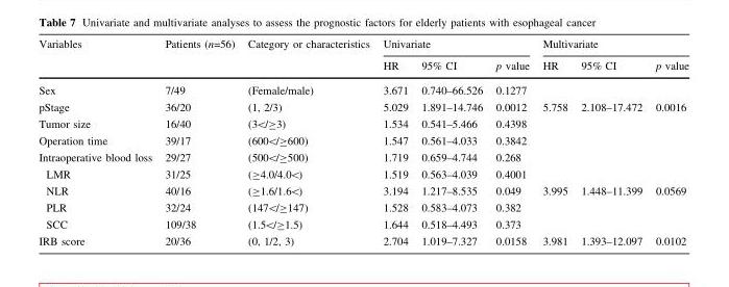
<table><thead><tr><td rowspan="2">Variables</td><td rowspan="2">Patients (n=56)</td><td rowspan="2">Category or characteristics</td><td colspan="3">Univariate</td><td colspan="3">Multivariate</td></tr><tr><td>HR</td><td>95% CI</td><td>p value</td><td>HR</td><td>95% CI</td><td>p value</td></tr></thead><tbody><tr><td>Sex</td><td>7/49</td><td>(Female/male)</td><td>3.671</td><td>0.740–66.526</td><td>0.1277</td><td></td><td></td><td></td></tr><tr><td>pStage</td><td>36/20</td><td>(1, 2/3)</td><td>5.029</td><td>1.891–14.746</td><td>0.0012</td><td>5.758</td><td>2.108–17.472</td><td>0.0016</td></tr><tr><td>Tumor size</td><td>16/40</td><td>(3&lt;/≥3)</td><td>1.534</td><td>0.541–5.466</td><td>0.4398</td><td></td><td></td><td></td></tr><tr><td>Operation time</td><td>39/17</td><td>(600&lt;/≥600)</td><td>1.547</td><td>0.561–4.033</td><td>0.3842</td><td></td><td></td><td></td></tr><tr><td>Intraoperative blood loss</td><td>29/27</td><td>(500&lt;/≥500)</td><td>1.719</td><td>0.659–4.744</td><td>0.268</td><td></td><td></td><td></td></tr><tr><td>LMR</td><td>31/25</td><td>(≥4.0/4.0&lt;)</td><td>1.519</td><td>0.563–4.039</td><td>0.4001</td><td></td><td></td><td></td></tr><tr><td>NLR</td><td>40/16</td><td>(≥1.6/1.6&lt;)</td><td>3.194</td><td>1.217–8.535</td><td>0.049</td><td>3.995</td><td>1.448–11.399</td><td>0.0569</td></tr><tr><td>PLR</td><td>32/24</td><td>(147&lt;/≥147)</td><td>1.528</td><td>0.583–4.073</td><td>0.382</td><td></td><td></td><td></td></tr><tr><td>SCC</td><td>109/38</td><td>(1.5&lt;/≥1.5)</td><td>1.644</td><td>0.518–4.493</td><td>0.373</td><td></td><td></td><td></td></tr><tr><td>IRB score</td><td>20/36</td><td>(0, 1/2, 3)</td><td>2.704</td><td>1.019–7.327</td><td>0.0158</td><td>3.981</td><td>1.393–12.097</td><td>0.0102</td></tr></tbody></table>